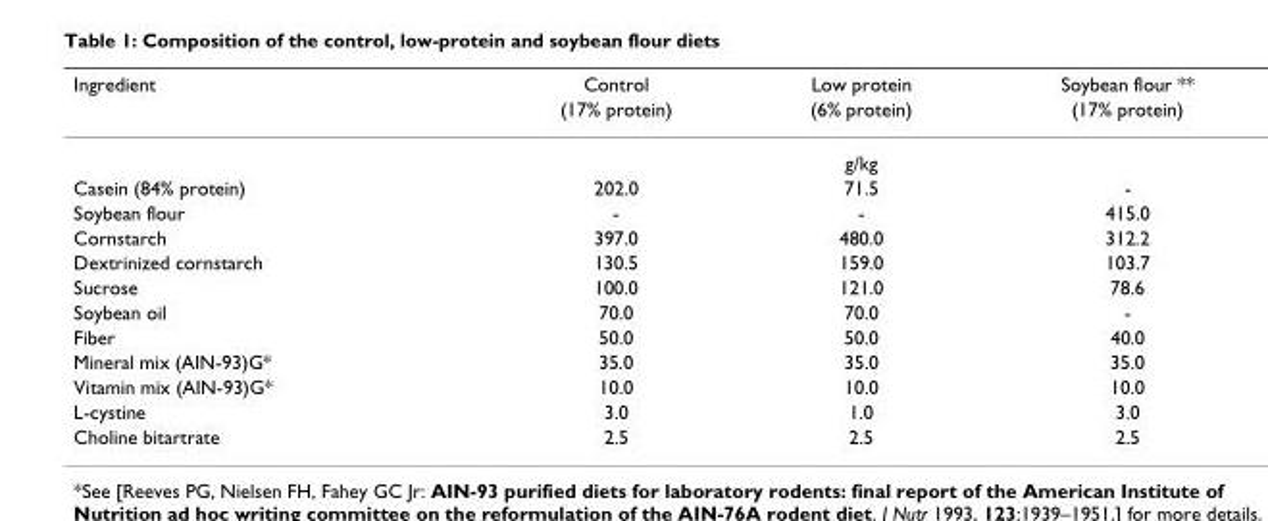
<table><thead><tr><td rowspan="2">Ingredient</td><td rowspan="2">Control (17% protein)</td><td rowspan="2">Low protein (6% protein)</td><td rowspan="2">Soybean flour ** (17% protein)</td></tr><tr></tr></thead><tbody><tr><td></td><td></td><td>g/kg</td><td></td></tr><tr><td>Casein (84% protein)</td><td>202.0</td><td>71.5</td><td>-</td></tr><tr><td>Soybean flour</td><td>-</td><td>-</td><td>415.0</td></tr><tr><td>Cornstarch</td><td>397.0</td><td>480.0</td><td>312.2</td></tr><tr><td>Dextrinized cornstarch</td><td>130.5</td><td>159.0</td><td>103.7</td></tr><tr><td>Sucrose</td><td>100.0</td><td>121.0</td><td>78.6</td></tr><tr><td>Soybean oil</td><td>70.0</td><td>70.0</td><td>-</td></tr><tr><td>Fiber</td><td>50.0</td><td>50.0</td><td>40.0</td></tr><tr><td>Mineral mix (AIN-93)G*</td><td>35.0</td><td>35.0</td><td>35.0</td></tr><tr><td>Vitamin mix (AIN-93)G*</td><td>10.0</td><td>10.0</td><td>10.0</td></tr><tr><td>L-cystine</td><td>3.0</td><td>1.0</td><td>3.0</td></tr><tr><td>Choline bitartrate</td><td>2.5</td><td>2.5</td><td>2.5</td></tr></tbody></table>